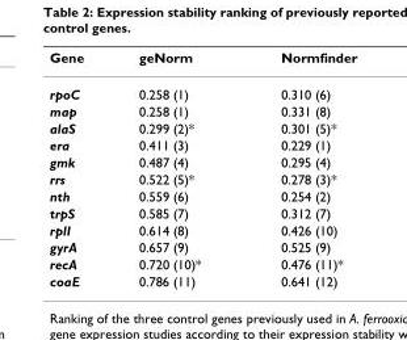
<table><thead><tr><td>Gene</td><td>geNorm</td><td>Normfinder</td></tr></thead><tbody><tr><td>rpoC</td><td>0.258 (1)</td><td>0.310 (6)</td></tr><tr><td>map</td><td>0.258 (1)</td><td>0.331 (8)</td></tr><tr><td>alaS</td><td>0.299 (2)*</td><td>0.301 (5)*</td></tr><tr><td>era</td><td>0.411 (3)</td><td>0.229 (1)</td></tr><tr><td>gmk</td><td>0.487 (4)</td><td>0.295 (4)</td></tr><tr><td>rrs</td><td>0.522 (5)*</td><td>0.278 (3)*</td></tr><tr><td>nth</td><td>0.559 (6)</td><td>0.254 (2)</td></tr><tr><td>trpS</td><td>0.585 (7)</td><td>0.312 (7)</td></tr><tr><td>rplI</td><td>0.614 (8)</td><td>0.426 (10)</td></tr><tr><td>gyrA</td><td>0.657 (9)</td><td>0.525 (9)</td></tr><tr><td>recA</td><td>0.720 (10)*</td><td>0.476 (11)*</td></tr><tr><td>coaE</td><td>0.786 (11)</td><td>0.641 (12)</td></tr></tbody></table>